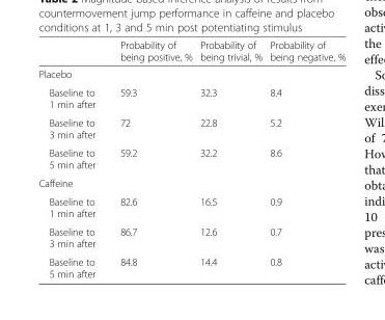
<table><thead><tr><td></td><td>Probability of being positive, %</td><td>Probability of being trivial, %</td><td>Probability of being negative, %</td></tr></thead><tbody><tr><td colspan="4">Placebo</td></tr><tr><td>Baseline to 1 min after</td><td>59.3</td><td>32.3</td><td>8.4</td></tr><tr><td>Baseline to 3 min after</td><td>72</td><td>22.8</td><td>5.2</td></tr><tr><td>Baseline to 5 min after</td><td>59.2</td><td>32.2</td><td>8.6</td></tr><tr><td colspan="4">Caffeine</td></tr><tr><td>Baseline to 1 min after</td><td>82.6</td><td>16.5</td><td>0.9</td></tr><tr><td>Baseline to 3 min after</td><td>86.7</td><td>12.6</td><td>0.7</td></tr><tr><td>Baseline to 5 min after</td><td>84.8</td><td>14.4</td><td>0.8</td></tr></tbody></table>